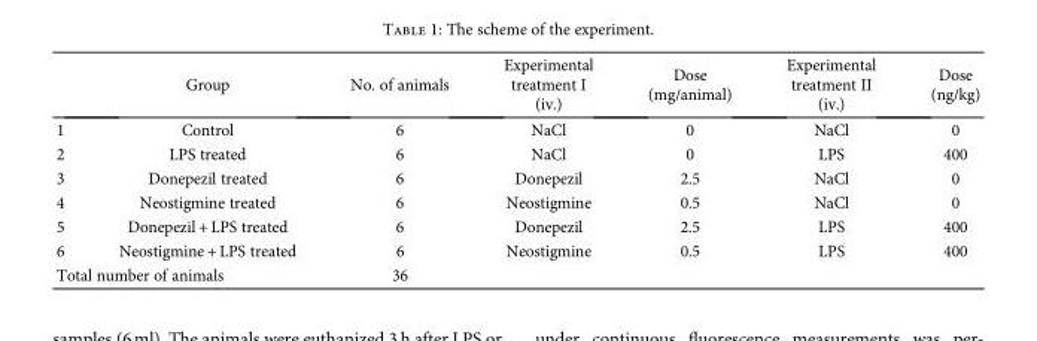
<table><thead><tr><td></td><td>Group</td><td>No. of animals</td><td>Experimental treatment I (iv.)</td><td>Dose (mg/animal)</td><td>Experimental treatment II (iv.)</td><td>Dose (ng/kg)</td></tr></thead><tbody><tr><td>1</td><td>Control</td><td>6</td><td>NaCl</td><td>0</td><td>NaCl</td><td>0</td></tr><tr><td>2</td><td>LPS treated</td><td>6</td><td>NaCl</td><td>0</td><td>LPS</td><td>400</td></tr><tr><td>3</td><td>Donepezil treated</td><td>6</td><td>Donepezil</td><td>2.5</td><td>NaCl</td><td>0</td></tr><tr><td>4</td><td>Neostigmine treated</td><td>6</td><td>Neostigmine</td><td>0.5</td><td>NaCl</td><td>0</td></tr><tr><td>5</td><td>Donepezil + LPS treated</td><td>6</td><td>Donepezil</td><td>2.5</td><td>LPS</td><td>400</td></tr><tr><td>6</td><td>Neostigmine + LPS treated</td><td>6</td><td>Neostigmine</td><td>0.5</td><td>LPS</td><td>400</td></tr><tr><td colspan="2">Total number of animals</td><td>36</td><td></td><td></td><td></td><td></td></tr></tbody></table>